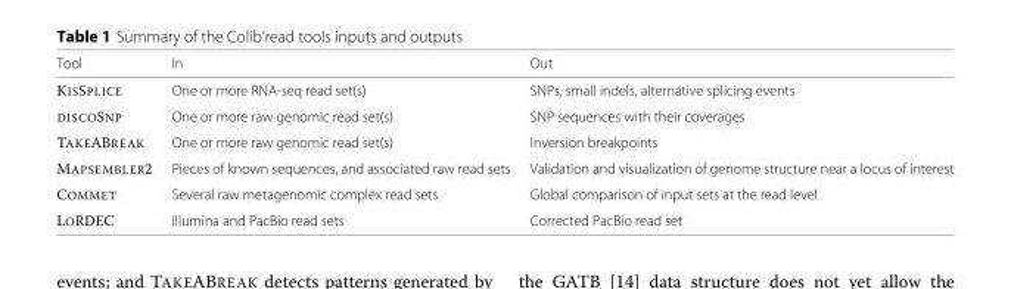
<table><thead><tr><td>Tool</td><td>In</td><td>Out</td></tr></thead><tbody><tr><td>KISSPLICE</td><td>One or more RNA-seq read set(s)</td><td>SNPs, small indels, alternative splicing events</td></tr><tr><td>DISCOSNP</td><td>One or more raw genomic read set(s)</td><td>SNP sequences with their coverages</td></tr><tr><td>TAKEABREAK</td><td>One or more raw genomic read set(s)</td><td>Inversion breakpoints</td></tr><tr><td>MAPSEMBLER2</td><td>Pieces of known sequences, and associated raw read sets</td><td>Validation and visualization of genome structure near a locus of interest</td></tr><tr><td>COMMET</td><td>Several raw metagenomic complex read sets</td><td>Global comparison of input sets at the read level</td></tr><tr><td>LORDEC</td><td>Illumina and PacBio read sets</td><td>Corrected PacBio read set</td></tr></tbody></table>